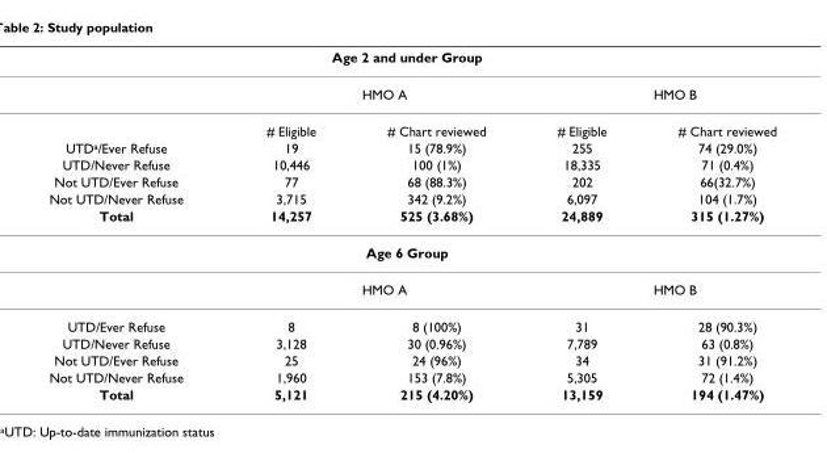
<table><thead><tr><td colspan="5">Age 2 and under Group</td></tr><tr><td rowspan="2"></td><td colspan="2">HMO A</td><td colspan="2">HMO B</td></tr><tr><td># Eligible</td><td># Chart reviewed</td><td># Eligible</td><td># Chart reviewed</td></tr></thead><tbody><tr><td>UTD<sup>a</sup>/Ever Refuse</td><td>19</td><td>15 (78.9%)</td><td>255</td><td>74 (29.0%)</td></tr><tr><td>UTD/Never Refuse</td><td>10,446</td><td>100 (1%)</td><td>18,335</td><td>71 (0.4%)</td></tr><tr><td>Not UTD/Ever Refuse</td><td>77</td><td>68 (88.3%)</td><td>202</td><td>66(32.7%)</td></tr><tr><td>Not UTD/Never Refuse</td><td>3,715</td><td>342 (9.2%)</td><td>6,097</td><td>104 (1.7%)</td></tr><tr><td>Total</td><td>14,257</td><td>525 (3.68%)</td><td>24,889</td><td>315 (1.27%)</td></tr><tr><td colspan="5">Age 6 Group</td></tr><tr><td></td><td colspan="2">HMO A</td><td colspan="2">HMO B</td></tr><tr><td>UTD/Ever Refuse</td><td>8</td><td>8 (100%)</td><td>31</td><td>28 (90.3%)</td></tr><tr><td>UTD/Never Refuse</td><td>3,128</td><td>30 (0.96%)</td><td>7,789</td><td>63 (0.8%)</td></tr><tr><td>Not UTD/Ever Refuse</td><td>25</td><td>24 (96%)</td><td>34</td><td>31 (91.2%)</td></tr><tr><td>Not UTD/Never Refuse</td><td>1,960</td><td>153 (7.8%)</td><td>5,305</td><td>72 (1.4%)</td></tr><tr><td>Total</td><td>5,121</td><td>215 (4.20%)</td><td>13,159</td><td>194 (1.47%)</td></tr></tbody></table>